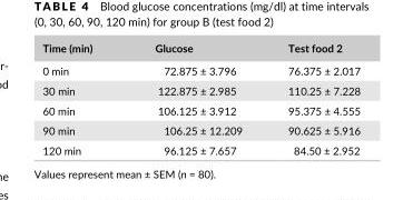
<table><thead><tr><td>Time (min)</td><td>Glucose</td><td>Test food 2</td></tr></thead><tbody><tr><td>0 min</td><td>72.875 ± 3.796</td><td>76.375 ± 2.017</td></tr><tr><td>30 min</td><td>122.875 ± 2.985</td><td>110.25 ± 7.228</td></tr><tr><td>60 min</td><td>106.125 ± 3.912</td><td>95.375 ± 4.555</td></tr><tr><td>90 min</td><td>106.25 ± 12.209</td><td>90.625 ± 5.916</td></tr><tr><td>120 min</td><td>96.125 ± 7.657</td><td>84.50 ± 2.952</td></tr></tbody></table>